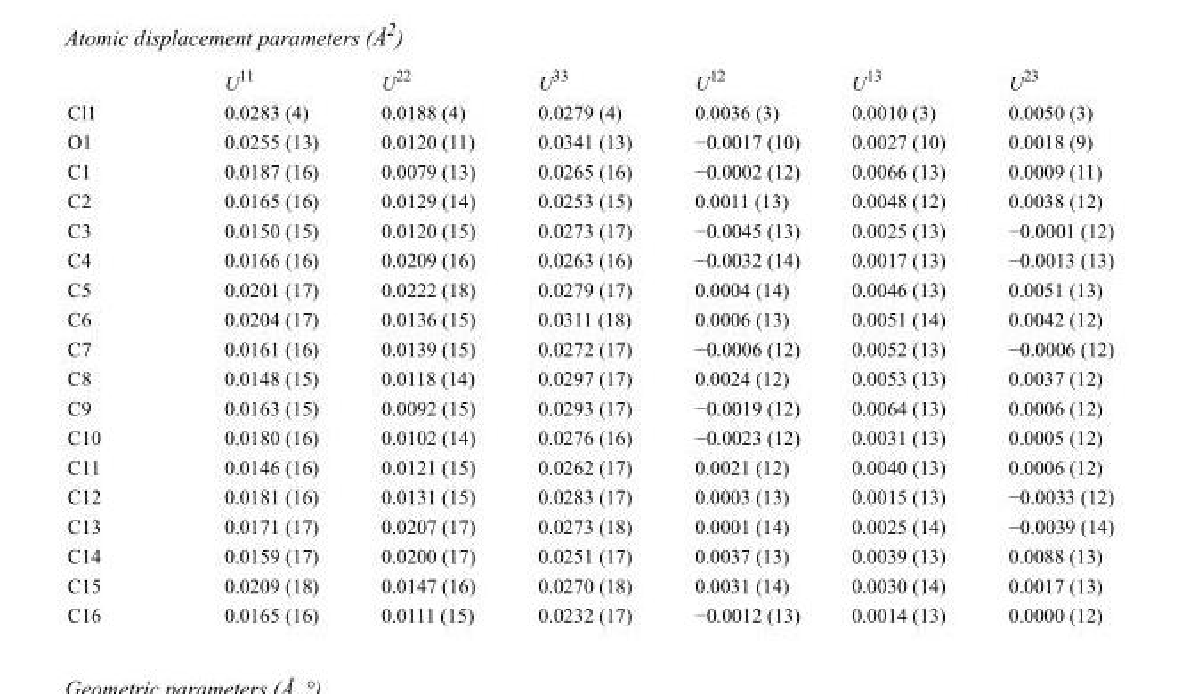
<table><thead><tr><td></td><td>U<sup>11</sup></td><td>U<sup>22</sup></td><td>U<sup>33</sup></td><td>U<sup>12</sup></td><td>U<sup>13</sup></td><td>U<sup>23</sup></td></tr></thead><tbody><tr><td>Cl1</td><td>0.0283 (4)</td><td>0.0188 (4)</td><td>0.0279 (4)</td><td>0.0036 (3)</td><td>0.0010 (3)</td><td>0.0050 (3)</td></tr><tr><td>O1</td><td>0.0255 (13)</td><td>0.0120 (11)</td><td>0.0341 (13)</td><td>−0.0017 (10)</td><td>0.0027 (10)</td><td>0.0018 (9)</td></tr><tr><td>C1</td><td>0.0187 (16)</td><td>0.0079 (13)</td><td>0.0265 (16)</td><td>−0.0002 (12)</td><td>0.0066 (13)</td><td>0.0009 (11)</td></tr><tr><td>C2</td><td>0.0165 (16)</td><td>0.0129 (14)</td><td>0.0253 (15)</td><td>0.0011 (13)</td><td>0.0048 (12)</td><td>0.0038 (12)</td></tr><tr><td>C3</td><td>0.0150 (15)</td><td>0.0120 (15)</td><td>0.0273 (17)</td><td>−0.0045 (13)</td><td>0.0025 (13)</td><td>−0.0001 (12)</td></tr><tr><td>C4</td><td>0.0166 (16)</td><td>0.0209 (16)</td><td>0.0263 (16)</td><td>−0.0032 (14)</td><td>0.0017 (13)</td><td>−0.0013 (13)</td></tr><tr><td>C5</td><td>0.0201 (17)</td><td>0.0222 (18)</td><td>0.0279 (17)</td><td>0.0004 (14)</td><td>0.0046 (13)</td><td>0.0051 (13)</td></tr><tr><td>C6</td><td>0.0204 (17)</td><td>0.0136 (15)</td><td>0.0311 (18)</td><td>0.0006 (13)</td><td>0.0051 (14)</td><td>0.0042 (12)</td></tr><tr><td>C7</td><td>0.0161 (16)</td><td>0.0139 (15)</td><td>0.0272 (17)</td><td>−0.0006 (12)</td><td>0.0052 (13)</td><td>−0.0006 (12)</td></tr><tr><td>C8</td><td>0.0148 (15)</td><td>0.0118 (14)</td><td>0.0297 (17)</td><td>0.0024 (12)</td><td>0.0053 (13)</td><td>0.0037 (12)</td></tr><tr><td>C9</td><td>0.0163 (15)</td><td>0.0092 (15)</td><td>0.0293 (17)</td><td>−0.0019 (12)</td><td>0.0064 (13)</td><td>0.0006 (12)</td></tr><tr><td>C10</td><td>0.0180 (16)</td><td>0.0102 (14)</td><td>0.0276 (16)</td><td>−0.0023 (12)</td><td>0.0031 (13)</td><td>0.0005 (12)</td></tr><tr><td>C11</td><td>0.0146 (16)</td><td>0.0121 (15)</td><td>0.0262 (17)</td><td>0.0021 (12)</td><td>0.0040 (13)</td><td>0.0006 (12)</td></tr><tr><td>C12</td><td>0.0181 (16)</td><td>0.0131 (15)</td><td>0.0283 (17)</td><td>0.0003 (13)</td><td>0.0015 (13)</td><td>−0.0033 (12)</td></tr><tr><td>C13</td><td>0.0171 (17)</td><td>0.0207 (17)</td><td>0.0273 (18)</td><td>0.0001 (14)</td><td>0.0025 (14)</td><td>−0.0039 (14)</td></tr><tr><td>C14</td><td>0.0159 (17)</td><td>0.0200 (17)</td><td>0.0251 (17)</td><td>0.0037 (13)</td><td>0.0039 (13)</td><td>0.0088 (13)</td></tr><tr><td>C15</td><td>0.0209 (18)</td><td>0.0147 (16)</td><td>0.0270 (18)</td><td>0.0031 (14)</td><td>0.0030 (14)</td><td>0.0017 (13)</td></tr><tr><td>C16</td><td>0.0165 (16)</td><td>0.0111 (15)</td><td>0.0232 (17)</td><td>−0.0012 (13)</td><td>0.0014 (13)</td><td>0.0000 (12)</td></tr></tbody></table>